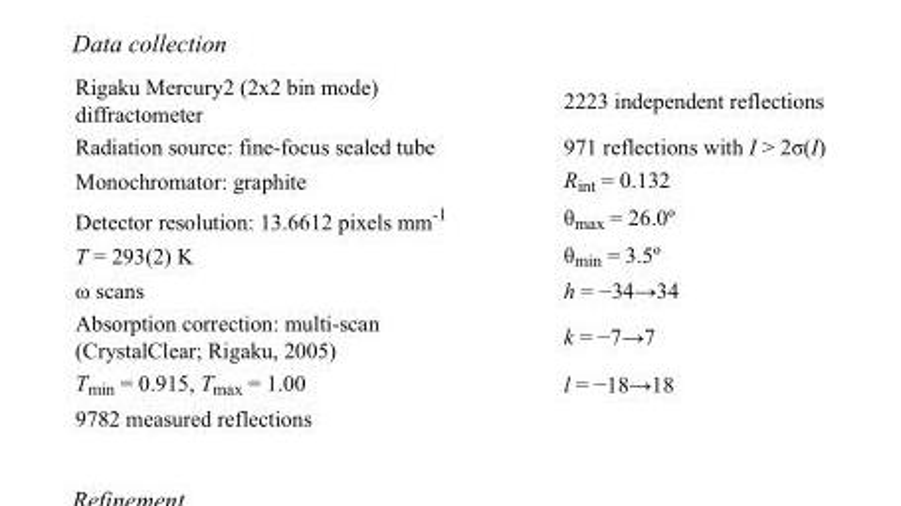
<table><tbody><tr><td>Rigaku Mercury2 (2x2 bin mode) diffractometer</td><td>2223 independent reflections</td></tr><tr><td>Radiation source: fine-focus sealed tube</td><td>971 reflections with I &gt; 2σ(I)</td></tr><tr><td>Monochromator: graphite</td><td>R<sub>int</sub> = 0.132</td></tr><tr><td>Detector resolution: 13.6612 pixels mm<sup>-1</sup></td><td>θ<sub>max</sub> = 26.0º</td></tr><tr><td>T = 293(2) K</td><td>θ<sub>min</sub> = 3.5º</td></tr><tr><td>ω scans</td><td>h = −34→34</td></tr><tr><td>Absorption correction: multi-scan (CrystalClear; Rigaku, 2005)</td><td>k = −7→7</td></tr><tr><td>T<sub>min</sub> = 0.915, T<sub>max</sub> = 1.00</td><td>l = −18→18</td></tr><tr><td>9782 measured reflections</td><td></td></tr></tbody></table>